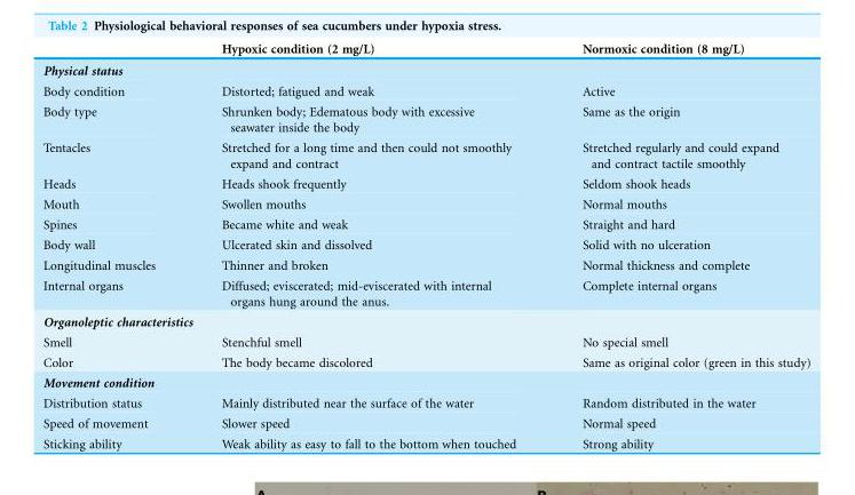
<table><thead><tr><td></td><td>Hypoxic condition (2 mg/L)</td><td>Normoxic condition (8 mg/L)</td></tr></thead><tbody><tr><td colspan="3">Physical status</td></tr><tr><td>Body condition</td><td>Distorted; fatigued and weak</td><td>Active</td></tr><tr><td>Body type</td><td>Shrunken body; Edematous body with excessive seawater inside the body</td><td>Same as the origin</td></tr><tr><td>Tentacles</td><td>Stretched for a long time and then could not smoothly expand and contract</td><td>Stretched regularly and could expand and contract tactile smoothly</td></tr><tr><td>Heads</td><td>Heads shook frequently</td><td>Seldom shook heads</td></tr><tr><td>Mouth</td><td>Swollen mouths</td><td>Normal mouths</td></tr><tr><td>Spines</td><td>Became white and weak</td><td>Straight and hard</td></tr><tr><td>Body wall</td><td>Ulcerated skin and dissolved</td><td>Solid with no ulceration</td></tr><tr><td>Longitudinal muscles</td><td>Thinner and broken</td><td>Normal thickness and complete</td></tr><tr><td>Internal organs</td><td>Diffused; eviscerated; mid-eviscerated with internal organs hung around the anus.</td><td>Complete internal organs</td></tr><tr><td colspan="3">Organoleptic characteristics</td></tr><tr><td>Smell</td><td>Stenchful smell</td><td>No special smell</td></tr><tr><td>Color</td><td>The body became discolored</td><td>Same as original color (green in this study)</td></tr><tr><td colspan="3">Movement condition</td></tr><tr><td>Distribution status</td><td>Mainly distributed near the surface of the water</td><td>Random distributed in the water</td></tr><tr><td>Speed of movement</td><td>Slower speed</td><td>Normal speed</td></tr><tr><td>Sticking ability</td><td>Weak ability as easy to fall to the bottom when touched</td><td>Strong ability</td></tr></tbody></table>